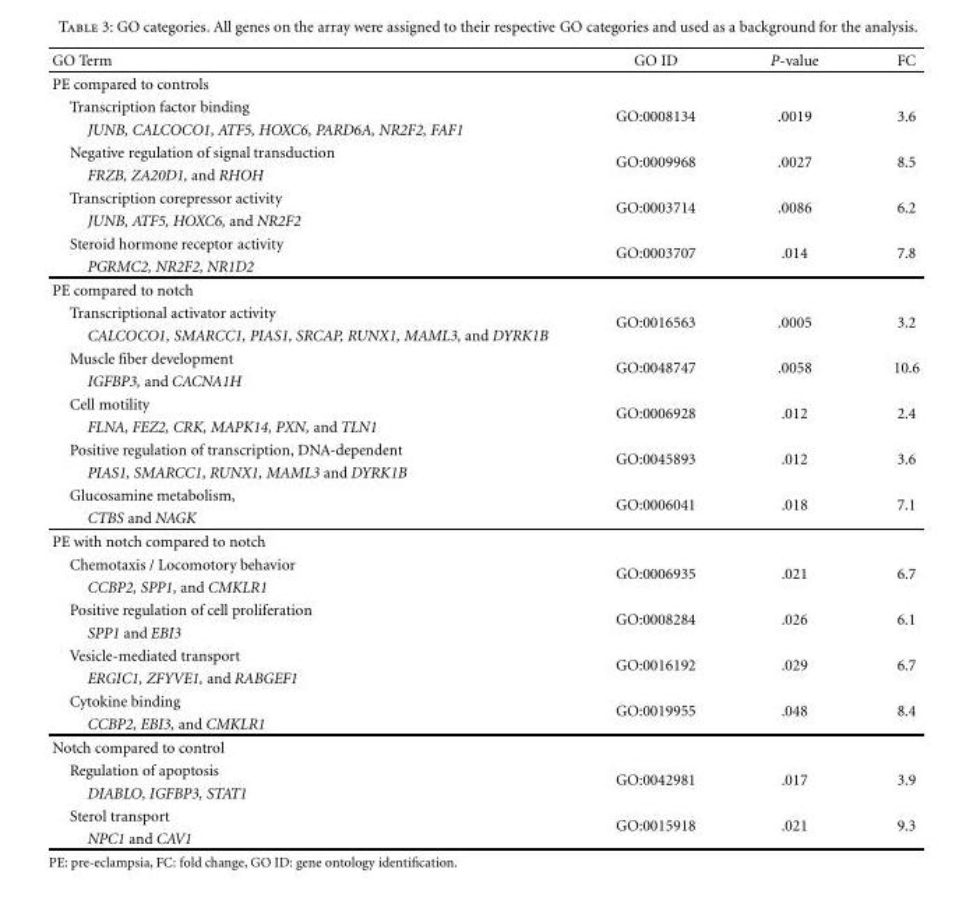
<table><thead><tr><td>GO Term</td><td>GO ID</td><td>P-value</td><td>FC</td></tr></thead><tbody><tr><td colspan="4">PE compared to controls</td></tr><tr><td>Transcription factor binding</td><td rowspan="2">GO:0008134</td><td rowspan="2">.0019</td><td rowspan="2">3.6</td></tr><tr><td>JUNB, CALCOCO1, ATF5, HOXC6, PARD6A, NR2F2, FAF1</td></tr><tr><td>Negative regulation of signal transduction</td><td rowspan="2">GO:0009968</td><td rowspan="2">.0027</td><td rowspan="2">8.5</td></tr><tr><td>FRZB, ZA20D1, and RHOH</td></tr><tr><td>Transcription corepressor activity</td><td rowspan="2">GO:0003714</td><td rowspan="2">.0086</td><td rowspan="2">6.2</td></tr><tr><td>JUNB, ATF5, HOXC6, and NR2F2</td></tr><tr><td>Steroid hormone receptor activity</td><td rowspan="2">GO:0003707</td><td rowspan="2">.014</td><td rowspan="2">7.8</td></tr><tr><td>PGRMC2, NR2F2, NR1D2</td></tr><tr><td colspan="4">PE compared to notch</td></tr><tr><td>Transcriptional activator activity</td><td rowspan="2">GO:0016563</td><td rowspan="2">.0005</td><td rowspan="2">3.2</td></tr><tr><td>CALCOCO1, SMARCC1, PIAS1, SRCAP, RUNX1, MAML3, and DYRK1B</td></tr><tr><td>Muscle fiber development</td><td rowspan="2">GO:0048747</td><td rowspan="2">.0058</td><td rowspan="2">10.6</td></tr><tr><td>IGFBP3, and CACNA1H</td></tr><tr><td>Cell motility</td><td rowspan="2">GO:0006928</td><td rowspan="2">.012</td><td rowspan="2">2.4</td></tr><tr><td>FLNA, FEZ2, CRK, MAPK14, PXN, and TLN1</td></tr><tr><td>Positive regulation of transcription, DNA-dependent</td><td rowspan="2">GO:0045893</td><td rowspan="2">.012</td><td rowspan="2">3.6</td></tr><tr><td>PIAS1, SMARCC1, RUNX1, MAML3 and DYRK1B</td></tr><tr><td>Glucosamine metabolism,</td><td rowspan="2">GO:0006041</td><td rowspan="2">.018</td><td rowspan="2">7.1</td></tr><tr><td>CTBS and NAGK</td></tr><tr><td colspan="4">PE with notch compared to notch</td></tr><tr><td>Chemotaxis / Locomotory behavior</td><td rowspan="2">GO:0006935</td><td rowspan="2">.021</td><td rowspan="2">6.7</td></tr><tr><td>CCBP2, SPP1, and CMKLR1</td></tr><tr><td>Positive regulation of cell proliferation</td><td rowspan="2">GO:0008284</td><td rowspan="2">.026</td><td rowspan="2">6.1</td></tr><tr><td>SPP1 and EBI3</td></tr><tr><td>Vesicle-mediated transport</td><td rowspan="2">GO:0016192</td><td rowspan="2">.029</td><td rowspan="2">6.7</td></tr><tr><td>ERGIC1, ZFYVE1, and RABGEF1</td></tr><tr><td>Cytokine binding</td><td rowspan="2">GO:0019955</td><td rowspan="2">.048</td><td rowspan="2">8.4</td></tr><tr><td>CCBP2, EBI3, and CMKLR1</td></tr><tr><td colspan="4">Notch compared to control</td></tr><tr><td>Regulation of apoptosis</td><td rowspan="2">GO:0042981</td><td rowspan="2">.017</td><td rowspan="2">3.9</td></tr><tr><td>DIABLO, IGFBP3, STAT1</td></tr><tr><td>Sterol transport</td><td rowspan="2">GO:0015918</td><td rowspan="2">.021</td><td rowspan="2">9.3</td></tr><tr><td>NPC1 and CAV1</td></tr></tbody></table>